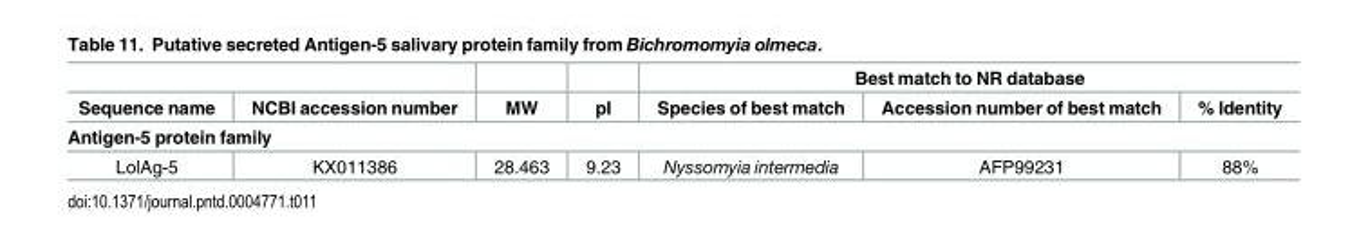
<table><thead><tr><td rowspan="2">Sequence name</td><td rowspan="2">NCBI accession number</td><td rowspan="2">MW</td><td rowspan="2">pI</td><td colspan="3">Best match to NR database</td></tr><tr><td>Species of best match</td><td>Accession number of best match</td><td>% Identity</td></tr><tr><td colspan="7">Antigen-5 protein family</td></tr></thead><tbody><tr><td>LolAg-5</td><td>KX011386</td><td>28.463</td><td>9.23</td><td>Nyssomyia intermedia</td><td>AFP99231</td><td>88%</td></tr></tbody></table>